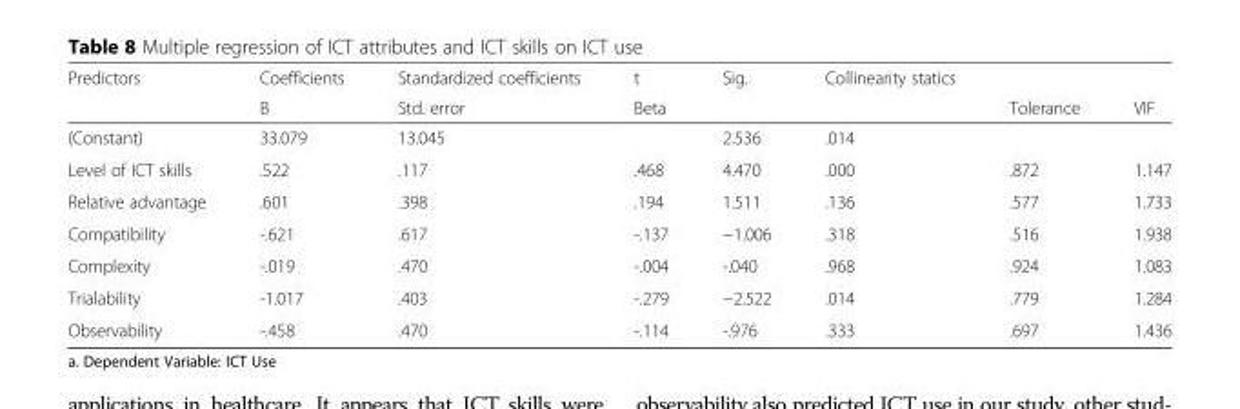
<table><thead><tr><td rowspan="2">Predictors</td><td rowspan="2">Coefficients B</td><td rowspan="2">Standardized coefficients Std. error</td><td rowspan="2">t Beta</td><td rowspan="2">Sig.</td><td rowspan="2">Collinearity statics</td><td rowspan="2">Tolerance</td><td rowspan="2">VIF</td></tr><tr></tr></thead><tbody><tr><td>(Constant)</td><td>33.079</td><td>13.045</td><td></td><td>2.536</td><td>.014</td><td></td><td></td></tr><tr><td>Level of ICT skills</td><td>.522</td><td>.117</td><td>.468</td><td>4.470</td><td>.000</td><td>.872</td><td>1.147</td></tr><tr><td>Relative advantage</td><td>.601</td><td>.398</td><td>.194</td><td>1.511</td><td>.136</td><td>.577</td><td>1.733</td></tr><tr><td>Compatibility</td><td>-.621</td><td>.617</td><td>-.137</td><td>−1.006</td><td>.318</td><td>.516</td><td>1.938</td></tr><tr><td>Complexity</td><td>-.019</td><td>.470</td><td>-.004</td><td>-.040</td><td>.968</td><td>.924</td><td>1.083</td></tr><tr><td>Trialability</td><td>-1.017</td><td>.403</td><td>-.279</td><td>−2.522</td><td>.014</td><td>.779</td><td>1.284</td></tr><tr><td>Observability</td><td>-.458</td><td>.470</td><td>-.114</td><td>-.976</td><td>.333</td><td>.697</td><td>1.436</td></tr></tbody></table>